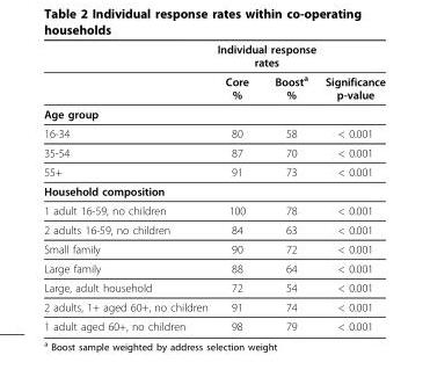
<table><thead><tr><td rowspan="2"></td><td colspan="2">Individual response rates</td><td rowspan="2">Significance p-value</td></tr><tr><td>Core %</td><td>Boosta %</td></tr></thead><tbody><tr><td colspan="4">Age group</td></tr><tr><td>16-34</td><td>80</td><td>58</td><td>&lt; 0.001</td></tr><tr><td>35-54</td><td>87</td><td>70</td><td>&lt; 0.001</td></tr><tr><td>55+</td><td>91</td><td>73</td><td>&lt; 0.001</td></tr><tr><td colspan="4">Household composition</td></tr><tr><td>1 adult 16-59, no children</td><td>100</td><td>78</td><td>&lt; 0.001</td></tr><tr><td>2 adults 16-59, no children</td><td>84</td><td>63</td><td>&lt; 0.001</td></tr><tr><td>Small family</td><td>90</td><td>72</td><td>&lt; 0.001</td></tr><tr><td>Large family</td><td>88</td><td>64</td><td>&lt; 0.001</td></tr><tr><td>Large, adult household</td><td>72</td><td>54</td><td>&lt; 0.001</td></tr><tr><td>2 adults, 1+ aged 60+, no children</td><td>91</td><td>74</td><td>&lt; 0.001</td></tr><tr><td>1 adult aged 60+, no children</td><td>98</td><td>79</td><td>&lt; 0.001</td></tr></tbody></table>